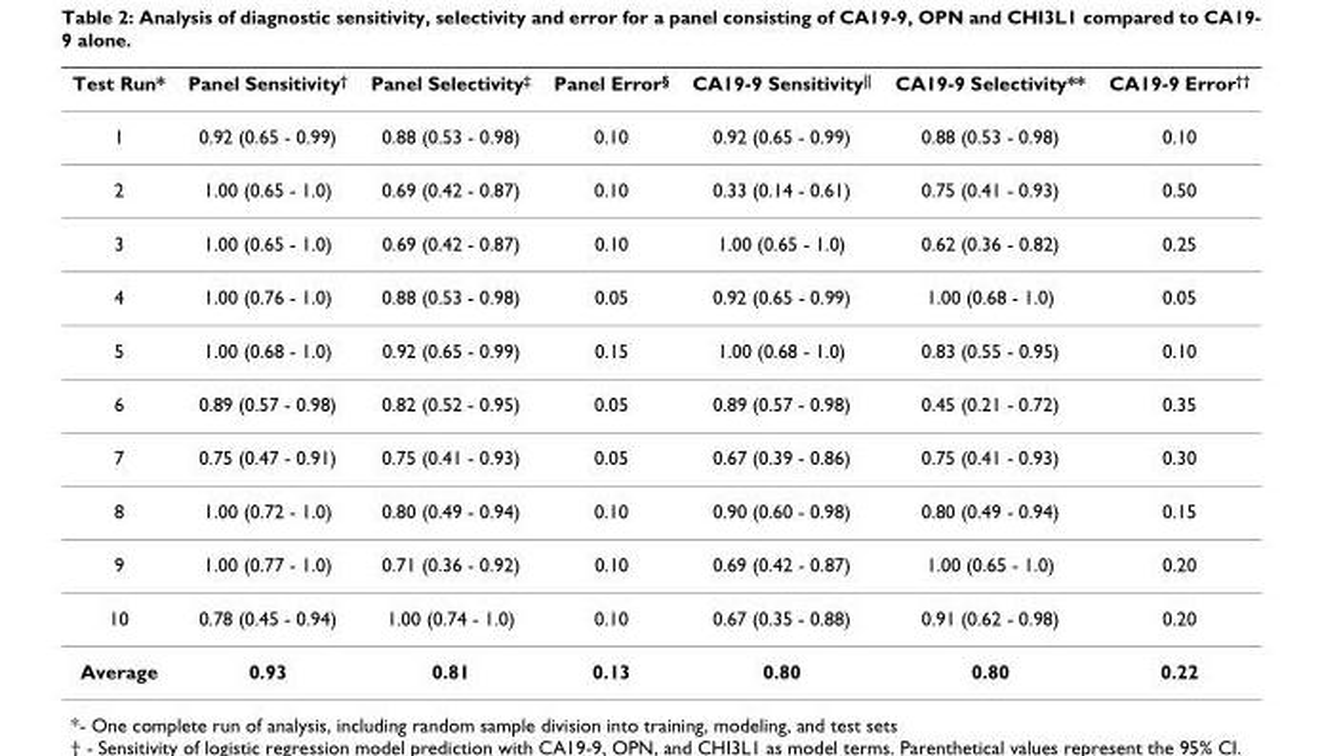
<table><thead><tr><td>Test Run*</td><td>Panel Sensitivity<sup>†</sup></td><td>Panel Selectivity<sup>‡</sup></td><td>Panel Error<sup>§</sup></td><td>CA19-9 Sensitivity<sup>||</sup></td><td>CA19-9 Selectivity**</td><td>CA19-9 Error<sup>††</sup></td></tr></thead><tbody><tr><td>1</td><td>0.92 (0.65 - 0.99)</td><td>0.88 (0.53 - 0.98)</td><td>0.10</td><td>0.92 (0.65 - 0.99)</td><td>0.88 (0.53 - 0.98)</td><td>0.10</td></tr><tr><td>2</td><td>1.00 (0.65 - 1.0)</td><td>0.69 (0.42 - 0.87)</td><td>0.10</td><td>0.33 (0.14 - 0.61)</td><td>0.75 (0.41 - 0.93)</td><td>0.50</td></tr><tr><td>3</td><td>1.00 (0.65 - 1.0)</td><td>0.69 (0.42 - 0.87)</td><td>0.10</td><td>1.00 (0.65 - 1.0)</td><td>0.62 (0.36 - 0.82)</td><td>0.25</td></tr><tr><td>4</td><td>1.00 (0.76 - 1.0)</td><td>0.88 (0.53 - 0.98)</td><td>0.05</td><td>0.92 (0.65 - 0.99)</td><td>1.00 (0.68 - 1.0)</td><td>0.05</td></tr><tr><td>5</td><td>1.00 (0.68 - 1.0)</td><td>0.92 (0.65 - 0.99)</td><td>0.15</td><td>1.00 (0.68 - 1.0)</td><td>0.83 (0.55 - 0.95)</td><td>0.10</td></tr><tr><td>6</td><td>0.89 (0.57 - 0.98)</td><td>0.82 (0.52 - 0.95)</td><td>0.05</td><td>0.89 (0.57 - 0.98)</td><td>0.45 (0.21 - 0.72)</td><td>0.35</td></tr><tr><td>7</td><td>0.75 (0.47 - 0.91)</td><td>0.75 (0.41 - 0.93)</td><td>0.05</td><td>0.67 (0.39 - 0.86)</td><td>0.75 (0.41 - 0.93)</td><td>0.30</td></tr><tr><td>8</td><td>1.00 (0.72 - 1.0)</td><td>0.80 (0.49 - 0.94)</td><td>0.10</td><td>0.90 (0.60 - 0.98)</td><td>0.80 (0.49 - 0.94)</td><td>0.15</td></tr><tr><td>9</td><td>1.00 (0.77 - 1.0)</td><td>0.71 (0.36 - 0.92)</td><td>0.10</td><td>0.69 (0.42 - 0.87)</td><td>1.00 (0.65 - 1.0)</td><td>0.20</td></tr><tr><td>10</td><td>0.78 (0.45 - 0.94)</td><td>1.00 (0.74 - 1.0)</td><td>0.10</td><td>0.67 (0.35 - 0.88)</td><td>0.91 (0.62 - 0.98)</td><td>0.20</td></tr><tr><td>Average</td><td>0.93</td><td>0.81</td><td>0.13</td><td>0.80</td><td>0.80</td><td>0.22</td></tr></tbody></table>